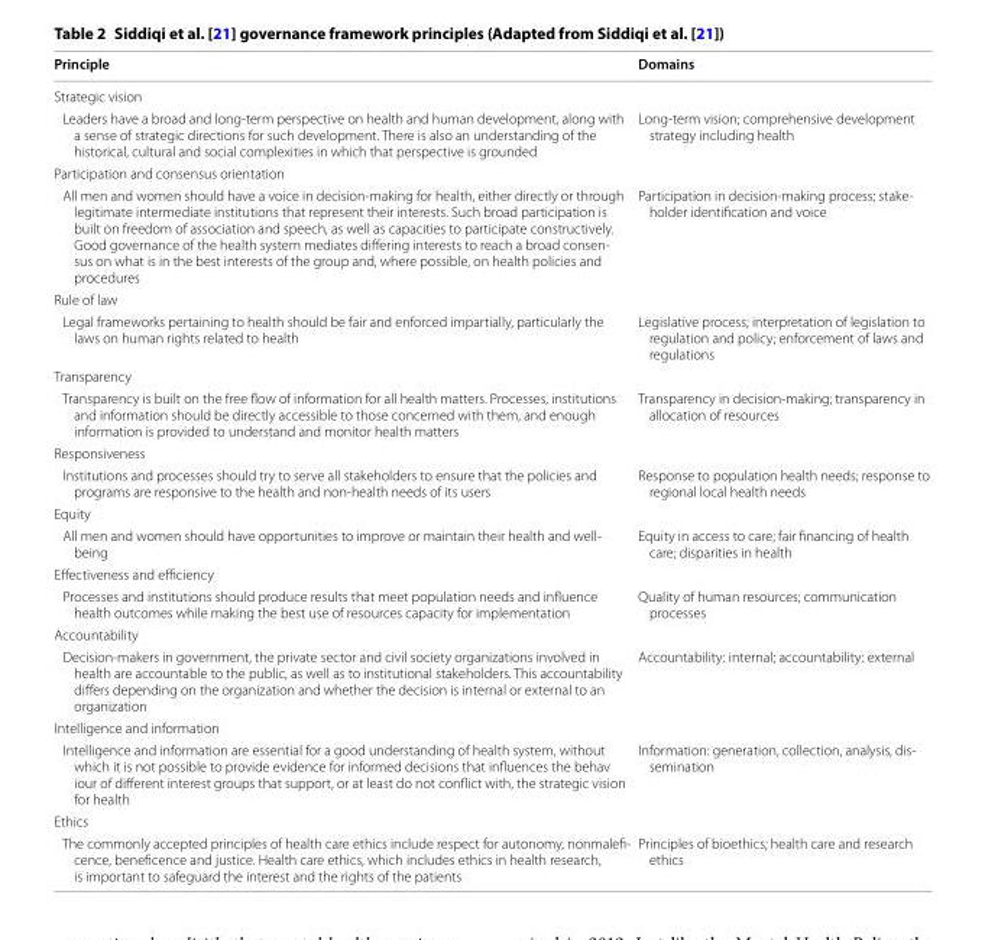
<table><thead><tr><td>Principle</td><td>Domains</td></tr></thead><tbody><tr><td colspan="2">Strategic vision</td></tr><tr><td>Leaders have a broad and long-term perspective on health and human development, along with a sense of strategic directions for such development. There is also an understanding of the historical, cultural and social complexities in which that perspective is grounded</td><td>Long-term vision; comprehensive development strategy including health</td></tr><tr><td colspan="2">Participation and consensus orientation</td></tr><tr><td>All men and women should have a voice in decision-making for health, either directly or through legitimate intermediate institutions that represent their interests. Such broad participation is built on freedom of association and speech, as well as capacities to participate constructively. Good governance of the health system mediates differing interests to reach a broad consen- sus on what is in the best interests of the group and, where possible, on health policies and procedures</td><td>Participation in decision-making process; stake- holder identification and voice</td></tr><tr><td colspan="2">Rule of law</td></tr><tr><td>Legal frameworks pertaining to health should be fair and enforced impartially, particularly the laws on human rights related to health</td><td>Legislative process; interpretation of legislation to regulation and policy; enforcement of laws and regulations</td></tr><tr><td colspan="2">Transparency</td></tr><tr><td>Transparency is built on the free flow of information for all health matters. Processes, institutions and information should be directly accessible to those concerned with them, and enough information is provided to understand and monitor health matters</td><td>Transparency in decision-making; transparency in allocation of resources</td></tr><tr><td colspan="2">Responsiveness</td></tr><tr><td>Institutions and processes should try to serve all stakeholders to ensure that the policies and programs are responsive to the health and non-health needs of its users</td><td>Response to population health needs; response to regional local health needs</td></tr><tr><td colspan="2">Equity</td></tr><tr><td>All men and women should have opportunities to improve or maintain their health and well- being</td><td>Equity in access to care; fair financing of health care; disparities in health</td></tr><tr><td colspan="2">Effectiveness and efficiency</td></tr><tr><td>Processes and institutions should produce results that meet population needs and influence health outcomes while making the best use of resources capacity for implementation</td><td>Quality of human resources; communication processes</td></tr><tr><td colspan="2">Accountability</td></tr><tr><td>Decision-makers in government, the private sector and civil society organizations involved in health are accountable to the public, as well as to institutional stakeholders. This accountability differs depending on the organization and whether the decision is internal or external to an organization</td><td>Accountability: internal; accountability: external</td></tr><tr><td colspan="2">Intelligence and information</td></tr><tr><td>Intelligence and information are essential for a good understanding of health system, without which it is not possible to provide evidence for informed decisions that influences the behav iour of different interest groups that support, or at least do not conflict with, the strategic vision for health</td><td>Information: generation, collection, analysis, dis- semination</td></tr><tr><td colspan="2">Ethics</td></tr><tr><td>The commonly accepted principles of health care ethics include respect for autonomy, nonmalefi- cence, beneficence and justice. Health care ethics, which includes ethics in health research, is important to safeguard the interest and the rights of the patients</td><td>Principles of bioethics; health care and research ethics</td></tr></tbody></table>